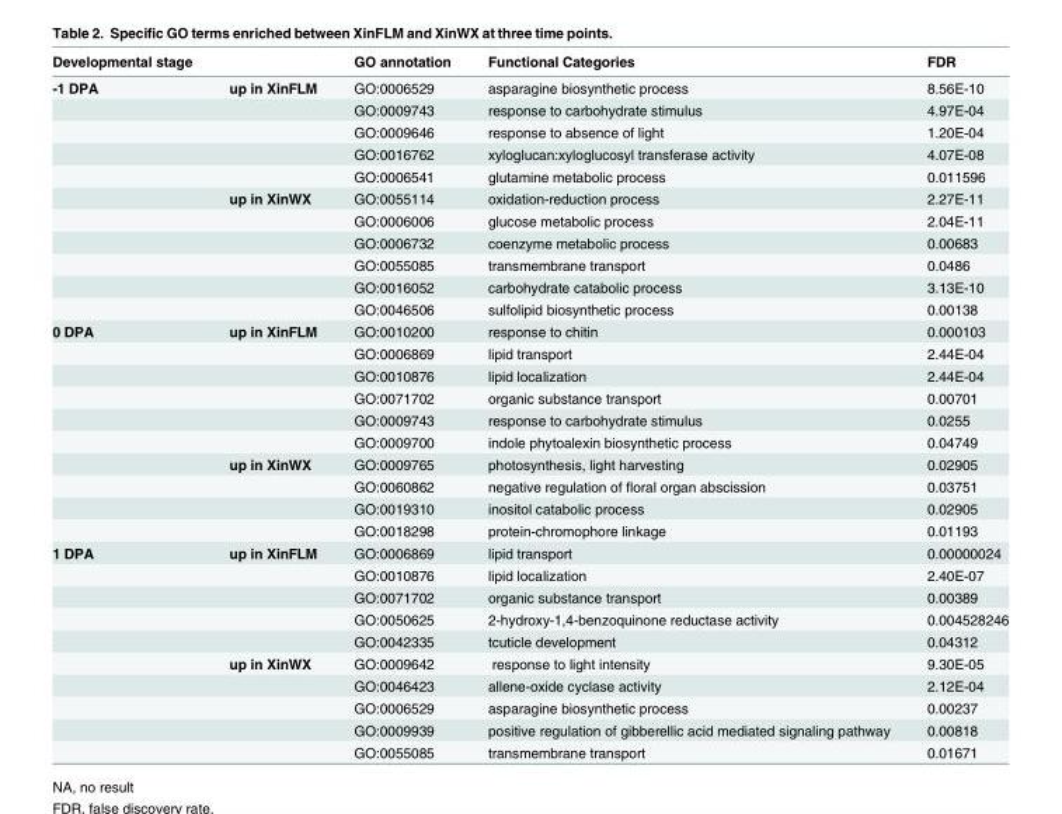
<table><thead><tr><td>Developmental stage</td><td></td><td>GO annotation</td><td>Functional Categories</td><td>FDR</td></tr></thead><tbody><tr><td rowspan="11">-1 DPA</td><td>up in XinFLM</td><td>GO:0006529</td><td>asparagine biosynthetic process</td><td>8.56E-10</td></tr><tr><td></td><td>GO:0009743</td><td>response to carbohydrate stimulus</td><td>4.97E-04</td></tr><tr><td></td><td>GO:0009646</td><td>response to absence of light</td><td>1.20E-04</td></tr><tr><td></td><td>GO:0016762</td><td>xyloglucan:xyloglucosyl transferase activity</td><td>4.07E-08</td></tr><tr><td></td><td>GO:0006541</td><td>glutamine metabolic process</td><td>0.011596</td></tr><tr><td>up in XinWX</td><td>GO:0055114</td><td>oxidation-reduction process</td><td>2.27E-11</td></tr><tr><td></td><td>GO:0006006</td><td>glucose metabolic process</td><td>2.04E-11</td></tr><tr><td></td><td>GO:0006732</td><td>coenzyme metabolic process</td><td>0.00683</td></tr><tr><td></td><td>GO:0055085</td><td>transmembrane transport</td><td>0.0486</td></tr><tr><td></td><td>GO:0016052</td><td>carbohydrate catabolic process</td><td>3.13E-10</td></tr><tr><td></td><td>GO:0046506</td><td>sulfolipid biosynthetic process</td><td>0.00138</td></tr><tr><td rowspan="10">0 DPA</td><td>up in XinFLM</td><td>GO:0010200</td><td>response to chitin</td><td>0.000103</td></tr><tr><td></td><td>GO:0006869</td><td>lipid transport</td><td>2.44E-04</td></tr><tr><td></td><td>GO:0010876</td><td>lipid localization</td><td>2.44E-04</td></tr><tr><td></td><td>GO:0071702</td><td>organic substance transport</td><td>0.00701</td></tr><tr><td></td><td>GO:0009743</td><td>response to carbohydrate stimulus</td><td>0.0255</td></tr><tr><td></td><td>GO:0009700</td><td>indole phytoalexin biosynthetic process</td><td>0.04749</td></tr><tr><td>up in XinWX</td><td>GO:0009765</td><td>photosynthesis, light harvesting</td><td>0.02905</td></tr><tr><td></td><td>GO:0060862</td><td>negative regulation of floral organ abscission</td><td>0.03751</td></tr><tr><td></td><td>GO:0019310</td><td>inositol catabolic process</td><td>0.02905</td></tr><tr><td></td><td>GO:0018298</td><td>protein-chromophore linkage</td><td>0.01193</td></tr><tr><td rowspan="10">1 DPA</td><td>up in XinFLM</td><td>GO:0006869</td><td>lipid transport</td><td>0.00000024</td></tr><tr><td></td><td>GO:0010876</td><td>lipid localization</td><td>2.40E-07</td></tr><tr><td></td><td>GO:0071702</td><td>organic substance transport</td><td>0.00389</td></tr><tr><td></td><td>GO:0050625</td><td>2-hydroxy-1,4-benzoquinone reductase activity</td><td>0.004528246</td></tr><tr><td></td><td>GO:0042335</td><td>tcuticle development</td><td>0.04312</td></tr><tr><td>up in XinWX</td><td>GO:0009642</td><td>response to light intensity</td><td>9.30E-05</td></tr><tr><td></td><td>GO:0046423</td><td>allene-oxide cyclase activity</td><td>2.12E-04</td></tr><tr><td></td><td>GO:0006529</td><td>asparagine biosynthetic process</td><td>0.00237</td></tr><tr><td></td><td>GO:0009939</td><td>positive regulation of gibberellic acid mediated signaling pathway</td><td>0.00818</td></tr><tr><td></td><td>GO:0055085</td><td>transmembrane transport</td><td>0.01671</td></tr></tbody></table>